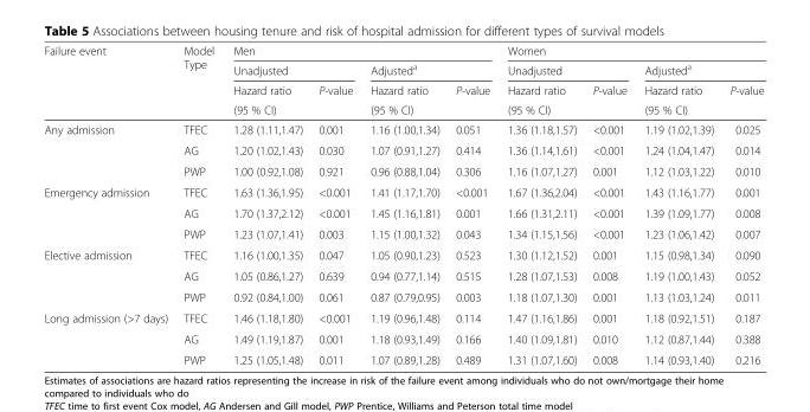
<table><thead><tr><td rowspan="4">Failure event</td><td rowspan="4">Model Type</td><td colspan="4">Men</td><td colspan="4">Women</td></tr><tr><td colspan="2">Unadjusted</td><td colspan="2">Adjusted<sup>a</sup></td><td colspan="2">Unadjusted</td><td colspan="2">Adjusted<sup>a</sup></td></tr><tr><td rowspan="2">Hazard ratio (95 % CI)</td><td rowspan="2">P-value</td><td rowspan="2">Hazard ratio (95 % CI)</td><td rowspan="2">P-value</td><td rowspan="2">Hazard ratio (95 % CI)</td><td rowspan="2">P-value</td><td rowspan="2">Hazard ratio (95 % CI)</td><td rowspan="2">P-value</td></tr><tr></tr></thead><tbody><tr><td rowspan="3">Any admission</td><td>TFEC</td><td>1.28 (1.11,1.47)</td><td>0.001</td><td>1.16 (1.00,1.34)</td><td>0.051</td><td>1.36 (1.18,1.57)</td><td>&lt;0.001</td><td>1.19 (1.02,1.39)</td><td>0.025</td></tr><tr><td>AG</td><td>1.20 (1.02,1.43)</td><td>0.030</td><td>1.07 (0.91,1.27)</td><td>0.414</td><td>1.36 (1.14,1.61)</td><td>&lt;0.001</td><td>1.24 (1.04,1.47)</td><td>0.014</td></tr><tr><td>PWP</td><td>1.00 (0.92,1.08)</td><td>0.921</td><td>0.96 (0.88,1.04)</td><td>0.306</td><td>1.16 (1.07,1.27)</td><td>0.001</td><td>1.12 (1.03,1.22)</td><td>0.010</td></tr><tr><td rowspan="3">Emergency admission</td><td>TFEC</td><td>1.63 (1.36,1.95)</td><td>&lt;0.001</td><td>1.41 (1.17,1.70)</td><td>&lt;0.001</td><td>1.67 (1.36,2.04)</td><td>&lt;0.001</td><td>1.43 (1.16,1.77)</td><td>0.001</td></tr><tr><td>AG</td><td>1.70 (1.37,2.12)</td><td>&lt;0.001</td><td>1.45 (1.16,1.81)</td><td>0.001</td><td>1.66 (1.31,2.11)</td><td>&lt;0.001</td><td>1.39 (1.09,1.77)</td><td>0.008</td></tr><tr><td>PWP</td><td>1.23 (1.07,1.41)</td><td>0.003</td><td>1.15 (1.00,1.32)</td><td>0.043</td><td>1.34 (1.15,1.56)</td><td>&lt;0.001</td><td>1.23 (1.06,1.42)</td><td>0.007</td></tr><tr><td rowspan="3">Elective admission</td><td>TFEC</td><td>1.16 (1.00,1.35)</td><td>0.047</td><td>1.05 (0.90,1.23)</td><td>0.523</td><td>1.30 (1.12,1.52)</td><td>0.001</td><td>1.15 (0.98,1.34)</td><td>0.090</td></tr><tr><td>AG</td><td>1.05 (0.86,1.27)</td><td>0.639</td><td>0.94 (0.77,1.14)</td><td>0.515</td><td>1.28 (1.07,1.53)</td><td>0.008</td><td>1.19 (1.00,1.43)</td><td>0.052</td></tr><tr><td>PWP</td><td>0.92 (0.84,1.00)</td><td>0.061</td><td>0.87 (0.79,0.95)</td><td>0.003</td><td>1.18 (1.07,1.30)</td><td>0.001</td><td>1.13 (1.03,1.24)</td><td>0.011</td></tr><tr><td rowspan="3">Long admission (&gt;7 days)</td><td>TFEC</td><td>1.46 (1.18,1.80)</td><td>&lt;0.001</td><td>1.19 (0.96,1.48)</td><td>0.114</td><td>1.47 (1.16,1.86)</td><td>0.001</td><td>1.18 (0.92,1.51)</td><td>0.187</td></tr><tr><td>AG</td><td>1.49 (1.19,1.87)</td><td>0.001</td><td>1.18 (0.93,1.49)</td><td>0.166</td><td>1.40 (1.09,1.81)</td><td>0.010</td><td>1.12 (0.87,1.44)</td><td>0.388</td></tr><tr><td>PWP</td><td>1.25 (1.05,1.48)</td><td>0.011</td><td>1.07 (0.89,1.28)</td><td>0.489</td><td>1.31 (1.07,1.60)</td><td>0.008</td><td>1.14 (0.93,1.40)</td><td>0.216</td></tr></tbody></table>